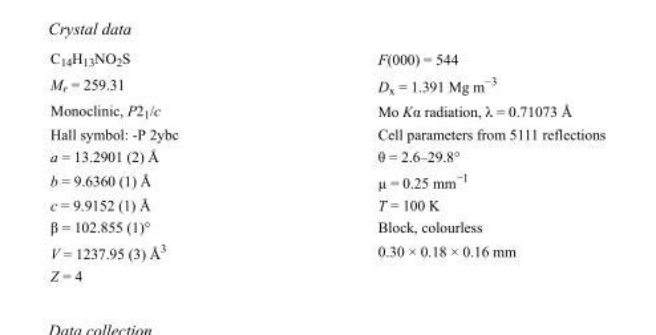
<table><tbody><tr><td>C<sub>14</sub>H<sub>13</sub>NO<sub>2</sub>S</td><td>F(000) = 544</td></tr><tr><td>M<sub>r</sub> = 259.31</td><td>D<sub>x</sub> = 1.391 Mg m<sup>−3</sup></td></tr><tr><td>Monoclinic, P2<sub>1</sub>/c</td><td>Mo Kα radiation, λ = 0.71073 Å</td></tr><tr><td>Hall symbol: -P 2ybc</td><td>Cell parameters from 5111 reflections</td></tr><tr><td>a = 13.2901 (2) Å</td><td>θ = 2.6–29.8°</td></tr><tr><td>b = 9.6360 (1) Å</td><td>µ = 0.25 mm<sup>−1</sup></td></tr><tr><td>c = 9.9152 (1) Å</td><td>T = 100 K</td></tr><tr><td>β = 102.855 (1)°</td><td>Block, colourless</td></tr><tr><td>V = 1237.95 (3) Å<sup>3</sup></td><td>0.30 × 0.18 × 0.16 mm</td></tr><tr><td>Z = 4</td><td></td></tr></tbody></table>